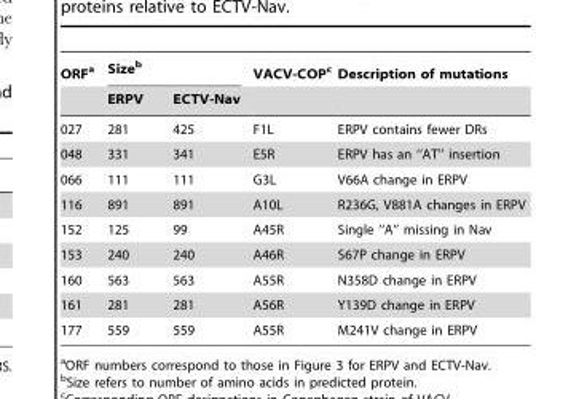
<table><thead><tr><td rowspan="2">ORF<sup>a</sup></td><td colspan="2">Size<sup>b</sup></td><td rowspan="2">VACV-COP<sup>c</sup></td><td rowspan="2">Description of mutations</td></tr><tr><td>ERPV</td><td>ECTV-Nav</td></tr></thead><tbody><tr><td>027</td><td>281</td><td>425</td><td>F1L</td><td>ERPV contains fewer DRs</td></tr><tr><td>048</td><td>331</td><td>341</td><td>E5R</td><td>ERPV has an ‘‘AT’’ insertion</td></tr><tr><td>066</td><td>111</td><td>111</td><td>G3L</td><td>V66A change in ERPV</td></tr><tr><td>116</td><td>891</td><td>891</td><td>A10L</td><td>R236G, V881A changes in ERPV</td></tr><tr><td>152</td><td>125</td><td>99</td><td>A45R</td><td>Single ‘‘A’’ missing in Nav</td></tr><tr><td>153</td><td>240</td><td>240</td><td>A46R</td><td>S67P change in ERPV</td></tr><tr><td>160</td><td>563</td><td>563</td><td>A55R</td><td>N358D change in ERPV</td></tr><tr><td>161</td><td>281</td><td>281</td><td>A56R</td><td>Y139D change in ERPV</td></tr><tr><td>177</td><td>559</td><td>559</td><td>A55R</td><td>M241V change in ERPV</td></tr></tbody></table>